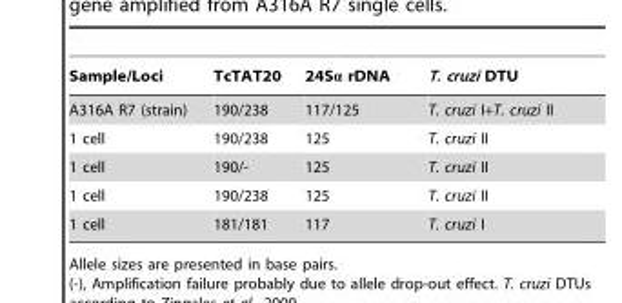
<table><thead><tr><td>Sample/Loci</td><td>TcTAT20</td><td>24Sα rDNA</td><td>T. cruzi DTU</td></tr></thead><tbody><tr><td>A316A R7 (strain)</td><td>190/238</td><td>117/125</td><td>T. cruzi I+T. cruzi II</td></tr><tr><td>1 cell</td><td>190/238</td><td>125</td><td>T. cruzi II</td></tr><tr><td>1 cell</td><td>190/-</td><td>125</td><td>T. cruzi II</td></tr><tr><td>1 cell</td><td>190/238</td><td>125</td><td>T. cruzi II</td></tr><tr><td>1 cell</td><td>181/181</td><td>117</td><td>T. cruzi I</td></tr></tbody></table>